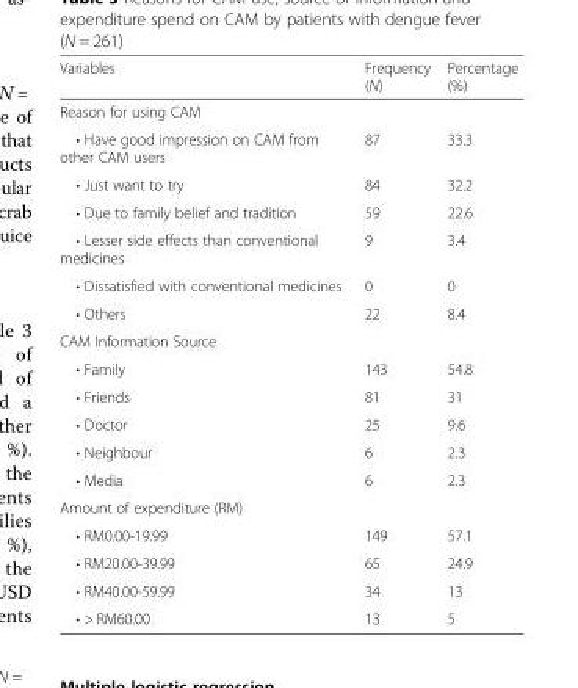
<table><thead><tr><td>Variables</td><td>Frequency (N)</td><td>Percentage (%)</td></tr></thead><tbody><tr><td colspan="3">Reason for using CAM</td></tr><tr><td>• Have good impression on CAM from other CAM users</td><td>87</td><td>33.3</td></tr><tr><td>• Just want to try</td><td>84</td><td>32.2</td></tr><tr><td>• Due to family belief and tradition</td><td>59</td><td>22.6</td></tr><tr><td>• Lesser side effects than conventional medicines</td><td>9</td><td>3.4</td></tr><tr><td>• Dissatisfied with conventional medicines</td><td>0</td><td>0</td></tr><tr><td>• Others</td><td>22</td><td>8.4</td></tr><tr><td colspan="3">CAM Information Source</td></tr><tr><td>• Family</td><td>143</td><td>54.8</td></tr><tr><td>• Friends</td><td>81</td><td>31</td></tr><tr><td>• Doctor</td><td>25</td><td>9.6</td></tr><tr><td>• Neighbour</td><td>6</td><td>2.3</td></tr><tr><td>• Media</td><td>6</td><td>2.3</td></tr><tr><td colspan="3">Amount of expenditure (RM)</td></tr><tr><td>• RM0.00-19.99</td><td>149</td><td>57.1</td></tr><tr><td>• RM20.00-39.99</td><td>65</td><td>24.9</td></tr><tr><td>• RM40.00-59.99</td><td>34</td><td>13</td></tr><tr><td>• &gt; RM60.00</td><td>13</td><td>5</td></tr></tbody></table>